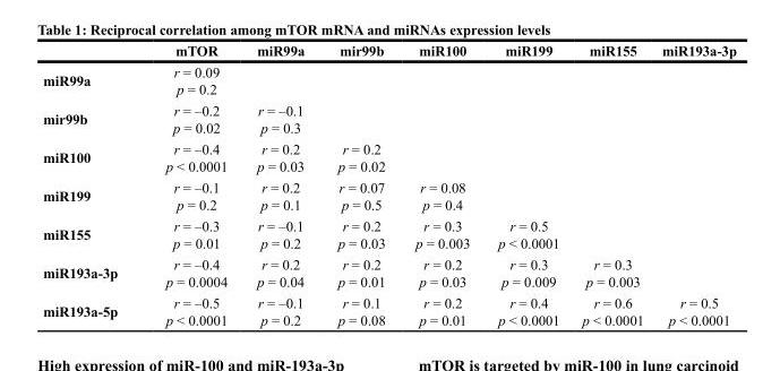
<table><thead><tr><td></td><td>mTOR</td><td>miR99a</td><td>mir99b</td><td>miR100</td><td>miR199</td><td>miR155</td><td>miR193a-3p</td></tr></thead><tbody><tr><td>miR99a</td><td>r = 0.09 p = 0.2</td><td></td><td></td><td></td><td></td><td></td><td></td></tr><tr><td>mir99b</td><td>r = –0.2 p = 0.02</td><td>r = –0.1 p = 0.3</td><td></td><td></td><td></td><td></td><td></td></tr><tr><td>miR100</td><td>r = –0.4 p &lt; 0.0001</td><td>r = 0.2 p = 0.03</td><td>r = 0.2 p = 0.02</td><td></td><td></td><td></td><td></td></tr><tr><td>miR199</td><td>r = –0.1 p = 0.2</td><td>r = 0.2 p = 0.1</td><td>r = 0.07 p = 0.5</td><td>r = 0.08 p = 0.4</td><td></td><td></td><td></td></tr><tr><td>miR155</td><td>r = –0.3 p = 0.01</td><td>r = –0.1 p = 0.2</td><td>r = 0.2 p = 0.03</td><td>r = 0.3 p = 0.003</td><td>r = 0.5 p &lt; 0.0001</td><td></td><td></td></tr><tr><td>miR193a-3p</td><td>r = –0.4 p = 0.0004</td><td>r = 0.2 p = 0.04</td><td>r = 0.2 p = 0.01</td><td>r = 0.2 p = 0.03</td><td>r = 0.3 p = 0.009</td><td>r = 0.3 p = 0.003</td><td></td></tr><tr><td>miR193a-5p</td><td>r = –0.5 p &lt; 0.0001</td><td>r = –0.1 p = 0.2</td><td>r = 0.1 p = 0.08</td><td>r = 0.2 p = 0.01</td><td>r = 0.4 p &lt; 0.0001</td><td>r = 0.6 p &lt; 0.0001</td><td>r = 0.5 p &lt; 0.0001</td></tr></tbody></table>